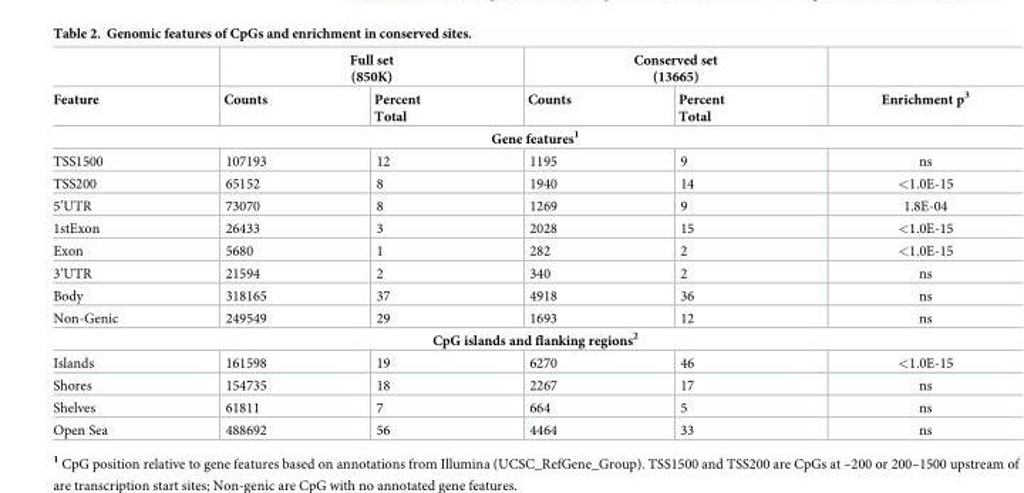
<table><thead><tr><td rowspan="2">Feature</td><td colspan="2">Full set (850K)</td><td colspan="2">Conserved set (13665)</td><td rowspan="2">Enrichment p<sup>3</sup></td></tr><tr><td>Counts</td><td>Percent Total</td><td>Counts</td><td>Percent Total</td></tr></thead><tbody><tr><td colspan="6">Gene features<sup>1</sup></td></tr><tr><td>TSS1500</td><td>107193</td><td>12</td><td>1195</td><td>9</td><td>ns</td></tr><tr><td>TSS200</td><td>65152</td><td>8</td><td>1940</td><td>14</td><td>&lt;1.0E-15</td></tr><tr><td>5’UTR</td><td>73070</td><td>8</td><td>1269</td><td>9</td><td>1.8E-04</td></tr><tr><td>1stExon</td><td>26433</td><td>3</td><td>2028</td><td>15</td><td>&lt;1.0E-15</td></tr><tr><td>Exon</td><td>5680</td><td>1</td><td>282</td><td>2</td><td>&lt;1.0E-15</td></tr><tr><td>3’UTR</td><td>21594</td><td>2</td><td>340</td><td>2</td><td>ns</td></tr><tr><td>Body</td><td>318165</td><td>37</td><td>4918</td><td>36</td><td>ns</td></tr><tr><td>Non-Genic</td><td>249549</td><td>29</td><td>1693</td><td>12</td><td>ns</td></tr><tr><td colspan="6">CpG islands and flanking regions<sup>2</sup></td></tr><tr><td>Islands</td><td>161598</td><td>19</td><td>6270</td><td>46</td><td>&lt;1.0E-15</td></tr><tr><td>Shores</td><td>154735</td><td>18</td><td>2267</td><td>17</td><td>ns</td></tr><tr><td>Shelves</td><td>61811</td><td>7</td><td>664</td><td>5</td><td>ns</td></tr><tr><td>Open Sea</td><td>488692</td><td>56</td><td>4464</td><td>33</td><td>ns</td></tr></tbody></table>